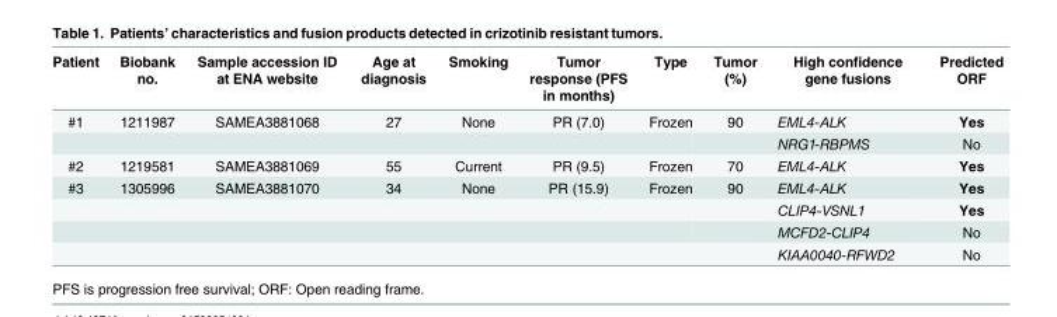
<table><thead><tr><td>Patient</td><td>Biobank no.</td><td>Sample accession ID at ENA website</td><td>Age at diagnosis</td><td>Smoking</td><td>Tumor response (PFS in months)</td><td>Type</td><td>Tumor (%)</td><td>High confidence gene fusions</td><td>Predicted ORF</td></tr></thead><tbody><tr><td rowspan="2">#1</td><td>1211987</td><td>SAMEA3881068</td><td>27</td><td>None</td><td>PR (7.0)</td><td>Frozen</td><td>90</td><td>EML4-ALK</td><td>Yes</td></tr><tr><td></td><td></td><td></td><td></td><td></td><td></td><td></td><td>NRG1-RBPMS</td><td>No</td></tr><tr><td>#2</td><td>1219581</td><td>SAMEA3881069</td><td>55</td><td>Current</td><td>PR (9.5)</td><td>Frozen</td><td>70</td><td>EML4-ALK</td><td>Yes</td></tr><tr><td rowspan="4">#3</td><td>1305996</td><td>SAMEA3881070</td><td>34</td><td>None</td><td>PR (15.9)</td><td>Frozen</td><td>90</td><td>EML4-ALK</td><td>Yes</td></tr><tr><td></td><td></td><td></td><td></td><td></td><td></td><td></td><td>CLIP4-VSNL1</td><td>Yes</td></tr><tr><td></td><td></td><td></td><td></td><td></td><td></td><td></td><td>MCFD2-CLIP4</td><td>No</td></tr><tr><td></td><td></td><td></td><td></td><td></td><td></td><td></td><td>KIAA0040-RFWD2</td><td>No</td></tr></tbody></table>